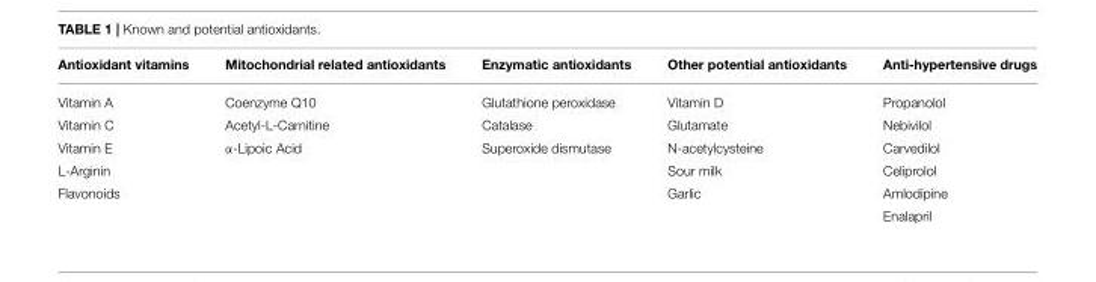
<table><thead><tr><td>Antioxidant vitamins</td><td>Mitochondrial related antioxidants</td><td>Enzymatic antioxidants</td><td>Other potential antioxidants</td><td>Anti-hypertensive drugs</td></tr></thead><tbody><tr><td>Vitamin A</td><td>Coenzyme Q10</td><td>Glutathione peroxidase</td><td>Vitamin D</td><td>Propanolol</td></tr><tr><td>Vitamin C</td><td>Acetyl-L-Carnitine</td><td>Catalase</td><td>Glutamate</td><td>Nebivilol</td></tr><tr><td>Vitamin E</td><td>α-Lipoic Acid</td><td>Superoxide dismutase</td><td>N-acetylcysteine</td><td>Carvedilol</td></tr><tr><td>L-Arginin</td><td></td><td></td><td>Sour milk</td><td>Celiprolol</td></tr><tr><td rowspan="2">Flavonoids</td><td></td><td></td><td>Garlic</td><td>Amlodipine</td></tr><tr><td></td><td></td><td></td><td>Enalapril</td></tr></tbody></table>